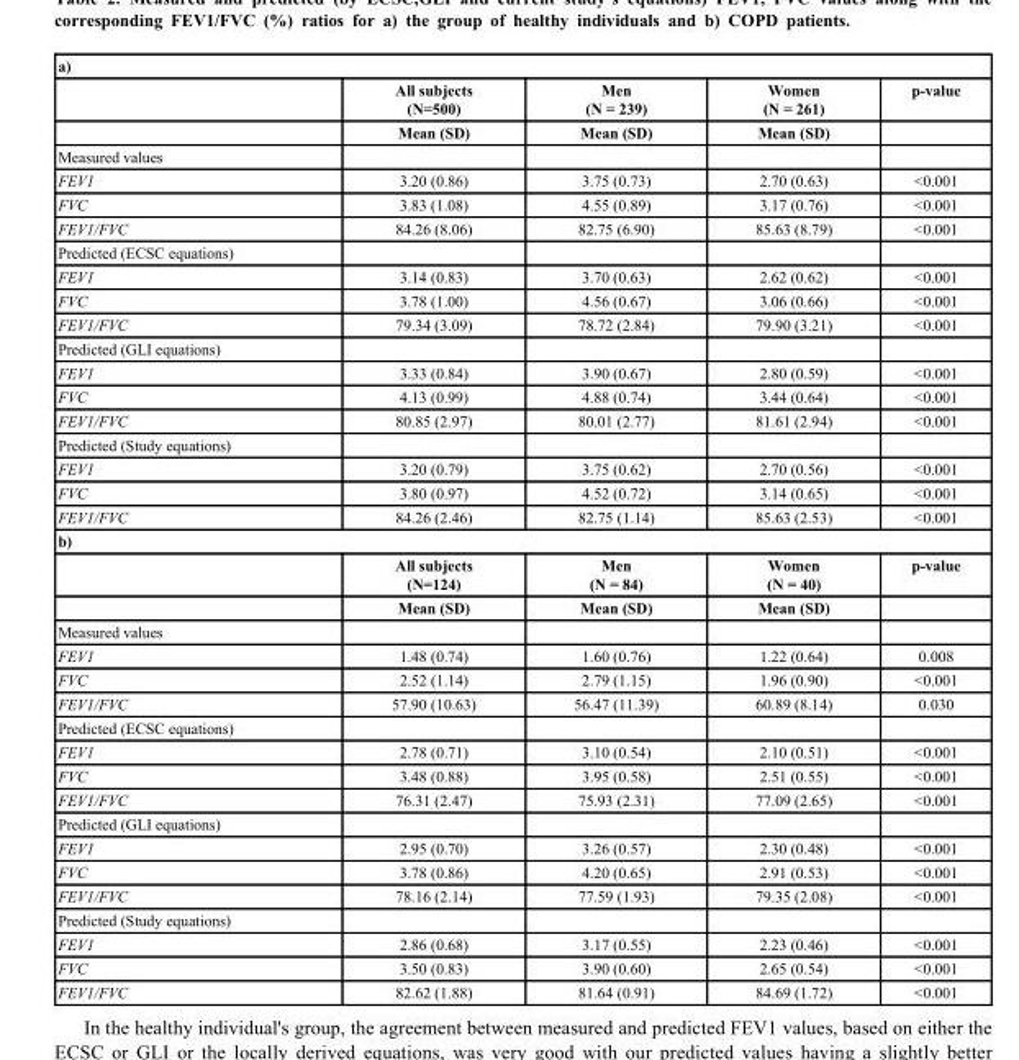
<table><thead><tr><td colspan="5">a)</td></tr><tr><td rowspan="2"></td><td rowspan="2">All subjects (N=500) Mean (SD)</td><td rowspan="2">Men (N = 239) Mean (SD)</td><td rowspan="2">Women (N = 261) Mean (SD)</td><td rowspan="2">p-value</td></tr><tr></tr></thead><tbody><tr><td colspan="5">Measured values</td></tr><tr><td>FEV1</td><td>3.20 (0.86)</td><td>3.75 (0.73)</td><td>2.70 (0.63)</td><td>&lt;0.001</td></tr><tr><td>FVC</td><td>3.83 (1.08)</td><td>4.55 (0.89)</td><td>3.17 (0.76)</td><td>&lt;0.001</td></tr><tr><td>FEV1/FVC</td><td>84.26 (8.06)</td><td>82.75 (6.90)</td><td>85.63 (8.79)</td><td>&lt;0.001</td></tr><tr><td colspan="5">Predicted (ECSC equations)</td></tr><tr><td>FEV1</td><td>3.14 (0.83)</td><td>3.70 (0.63)</td><td>2.62 (0.62)</td><td>&lt;0.001</td></tr><tr><td>FVC</td><td>3.78 (1.00)</td><td>4.56 (0.67)</td><td>3.06 (0.66)</td><td>&lt;0.001</td></tr><tr><td>FEV1/FVC</td><td>79.34 (3.09)</td><td>78.72 (2.84)</td><td>79.90 (3.21)</td><td>&lt;0.001</td></tr><tr><td colspan="5">Predicted (GLI equations)</td></tr><tr><td>FEV1</td><td>3.33 (0.84)</td><td>3.90 (0.67)</td><td>2.80 (0.59)</td><td>&lt;0.001</td></tr><tr><td>FVC</td><td>4.13 (0.99)</td><td>4.88 (0.74)</td><td>3.44 (0.64)</td><td>&lt;0.001</td></tr><tr><td>FEV1/FVC</td><td>80.85 (2.97)</td><td>80.01 (2.77)</td><td>81.61 (2.94)</td><td>&lt;0.001</td></tr><tr><td colspan="5">Predicted (Study equations)</td></tr><tr><td>FEV1</td><td>3.20 (0.79)</td><td>3.75 (0.62)</td><td>2.70 (0.56)</td><td>&lt;0.001</td></tr><tr><td>FVC</td><td>3.80 (0.97)</td><td>4.52 (0.72)</td><td>3.14 (0.65)</td><td>&lt;0.001</td></tr><tr><td>FEV1/FVC</td><td>84.26 (2.46)</td><td>82.75 (1.14)</td><td>85.63 (2.53)</td><td>&lt;0.001</td></tr><tr><td colspan="5">b)</td></tr><tr><td></td><td>All subjects (N=124)</td><td>Men (N = 84)</td><td>Women (N = 40)</td><td>p-value</td></tr><tr><td></td><td>Mean (SD)</td><td>Mean (SD)</td><td>Mean (SD)</td><td></td></tr><tr><td colspan="5">Measured values</td></tr><tr><td>FEV1</td><td>1.48 (0.74)</td><td>1.60 (0.76)</td><td>1.22 (0.64)</td><td>0.008</td></tr><tr><td>FVC</td><td>2.52 (1.14)</td><td>2.79 (1.15)</td><td>1.96 (0.90)</td><td>&lt;0.001</td></tr><tr><td>FEV1/FVC</td><td>57.90 (10.63)</td><td>56.47 (11.39)</td><td>60.89 (8.14)</td><td>0.030</td></tr><tr><td colspan="5">Predicted (ECSC equations)</td></tr><tr><td>FEV1</td><td>2.78 (0.71)</td><td>3.10 (0.54)</td><td>2.10 (0.51)</td><td>&lt;0.001</td></tr><tr><td>FVC</td><td>3.48 (0.88)</td><td>3.95 (0.58)</td><td>2.51 (0.55)</td><td>&lt;0.001</td></tr><tr><td>FEV1/FVC</td><td>76.31 (2.47)</td><td>75.93 (2.31)</td><td>77.09 (2.65)</td><td>&lt;0.001</td></tr><tr><td colspan="5">Predicted (GLI equations)</td></tr><tr><td>FEV1</td><td>2.95 (0.70)</td><td>3.26 (0.57)</td><td>2.30 (0.48)</td><td>&lt;0.001</td></tr><tr><td>FVC</td><td>3.78 (0.86)</td><td>4.20 (0.65)</td><td>2.91 (0.53)</td><td>&lt;0.001</td></tr><tr><td>FEV1/FVC</td><td>78.16 (2.14)</td><td>77.59 (1.93)</td><td>79.35 (2.08)</td><td>&lt;0.001</td></tr><tr><td colspan="5">Predicted (Study equations)</td></tr><tr><td>FEV1</td><td>2.86 (0.68)</td><td>3.17 (0.55)</td><td>2.23 (0.46)</td><td>&lt;0.001</td></tr><tr><td>FVC</td><td>3.50 (0.83)</td><td>3.90 (0.60)</td><td>2.65 (0.54)</td><td>&lt;0.001</td></tr><tr><td>FEV1/FVC</td><td>82.62 (1.88)</td><td>81.64 (0.91)</td><td>84.69 (1.72)</td><td>&lt;0.001</td></tr></tbody></table>